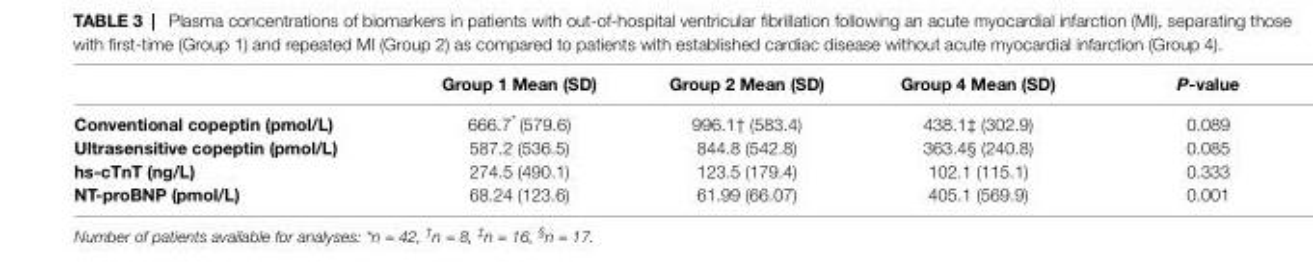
<table><thead><tr><td></td><td>group 1 Mean (sD)</td><td>group 2 Mean (sD)</td><td>group 4 Mean (sD)</td><td>P-value</td></tr></thead><tbody><tr><td>conventional copeptin (pmol/l)</td><td>666.7* (579.6)</td><td>996.1<sup>†</sup> (583.4)</td><td>438.1<sup>‡</sup> (302.9)</td><td>0.089</td></tr><tr><td>ultrasensitive copeptin (pmol/l)</td><td>587.2 (536.5)</td><td>844.8 (542.8)</td><td>363.4<sup>§</sup> (240.8)</td><td>0.085</td></tr><tr><td>hs-cTnT (ng/l)</td><td>274.5 (490.1)</td><td>123.5 (179.4)</td><td>102.1 (115.1)</td><td>0.333</td></tr><tr><td>nT-proBnP (pmol/l)</td><td>68.24 (123.6)</td><td>61.99 (66.07)</td><td>405.1 (569.9)</td><td>0.001</td></tr></tbody></table>